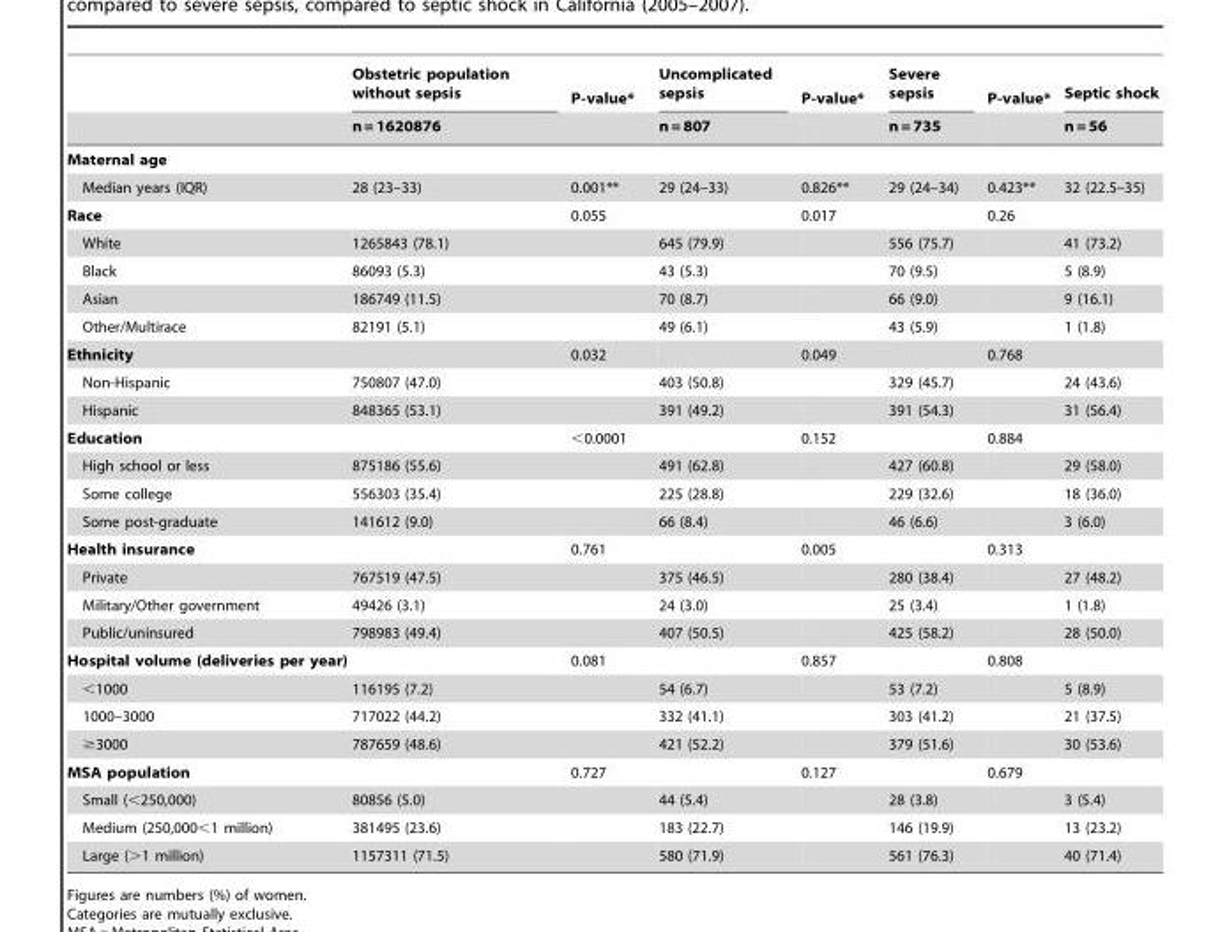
<table><thead><tr><td rowspan="2"></td><td rowspan="2">Obstetric population without sepsis n = 1620876</td><td rowspan="2">P-value*</td><td rowspan="2">Uncomplicated sepsis n = 807</td><td rowspan="2">P-value*</td><td rowspan="2">Severe sepsis n = 735</td><td rowspan="2">P-value*</td><td rowspan="2">Septic shock n = 56</td></tr><tr></tr></thead><tbody><tr><td colspan="8">Maternal age</td></tr><tr><td>Median years (IQR)</td><td>28 (23–33)</td><td>0.001**</td><td>29 (24–33)</td><td>0.826**</td><td>29 (24–34)</td><td>0.423**</td><td>32 (22.5–35)</td></tr><tr><td>Race</td><td></td><td>0.055</td><td></td><td>0.017</td><td></td><td>0.26</td><td></td></tr><tr><td>White</td><td>1265843 (78.1)</td><td></td><td>645 (79.9)</td><td></td><td>556 (75.7)</td><td></td><td>41 (73.2)</td></tr><tr><td>Black</td><td>86093 (5.3)</td><td></td><td>43 (5.3)</td><td></td><td>70 (9.5)</td><td></td><td>5 (8.9)</td></tr><tr><td>Asian</td><td>186749 (11.5)</td><td></td><td>70 (8.7)</td><td></td><td>66 (9.0)</td><td></td><td>9 (16.1)</td></tr><tr><td>Other/Multirace</td><td>82191 (5.1)</td><td></td><td>49 (6.1)</td><td></td><td>43 (5.9)</td><td></td><td>1 (1.8)</td></tr><tr><td>Ethnicity</td><td></td><td>0.032</td><td></td><td>0.049</td><td></td><td>0.768</td><td></td></tr><tr><td>Non-Hispanic</td><td>750807 (47.0)</td><td></td><td>403 (50.8)</td><td></td><td>329 (45.7)</td><td></td><td>24 (43.6)</td></tr><tr><td>Hispanic</td><td>848365 (53.1)</td><td></td><td>391 (49.2)</td><td></td><td>391 (54.3)</td><td></td><td>31 (56.4)</td></tr><tr><td>Education</td><td></td><td>&lt;0.0001</td><td></td><td>0.152</td><td></td><td>0.884</td><td></td></tr><tr><td>High school or less</td><td>875186 (55.6)</td><td></td><td>491 (62.8)</td><td></td><td>427 (60.8)</td><td></td><td>29 (58.0)</td></tr><tr><td>Some college</td><td>556303 (35.4)</td><td></td><td>225 (28.8)</td><td></td><td>229 (32.6)</td><td></td><td>18 (36.0)</td></tr><tr><td>Some post-graduate</td><td>141612 (9.0)</td><td></td><td>66 (8.4)</td><td></td><td>46 (6.6)</td><td></td><td>3 (6.0)</td></tr><tr><td>Health insurance</td><td></td><td>0.761</td><td></td><td>0.005</td><td></td><td>0.313</td><td></td></tr><tr><td>Private</td><td>767519 (47.5)</td><td></td><td>375 (46.5)</td><td></td><td>280 (38.4)</td><td></td><td>27 (48.2)</td></tr><tr><td>Military/Other government</td><td>49426 (3.1)</td><td></td><td>24 (3.0)</td><td></td><td>25 (3.4)</td><td></td><td>1 (1.8)</td></tr><tr><td>Public/uninsured</td><td>798983 (49.4)</td><td></td><td>407 (50.5)</td><td></td><td>425 (58.2)</td><td></td><td>28 (50.0)</td></tr><tr><td>Hospital volume (deliveries per year)</td><td></td><td>0.081</td><td></td><td>0.857</td><td></td><td>0.808</td><td></td></tr><tr><td>&lt;1000</td><td>116195 (7.2)</td><td></td><td>54 (6.7)</td><td></td><td>53 (7.2)</td><td></td><td>5 (8.9)</td></tr><tr><td>1000–3000</td><td>717022 (44.2)</td><td></td><td>332 (41.1)</td><td></td><td>303 (41.2)</td><td></td><td>21 (37.5)</td></tr><tr><td>≥3000</td><td>787659 (48.6)</td><td></td><td>421 (52.2)</td><td></td><td>379 (51.6)</td><td></td><td>30 (53.6)</td></tr><tr><td>MSA population</td><td></td><td>0.727</td><td></td><td>0.127</td><td></td><td>0.679</td><td></td></tr><tr><td>Small (&lt;250,000)</td><td>80856 (5.0)</td><td></td><td>44 (5.4)</td><td></td><td>28 (3.8)</td><td></td><td>3 (5.4)</td></tr><tr><td>Medium (250,000&lt;1 million)</td><td>381495 (23.6)</td><td></td><td>183 (22.7)</td><td></td><td>146 (19.9)</td><td></td><td>13 (23.2)</td></tr><tr><td>Large (&gt;1 million)</td><td>1157311 (71.5)</td><td></td><td>580 (71.9)</td><td></td><td>561 (76.3)</td><td></td><td>40 (71.4)</td></tr></tbody></table>